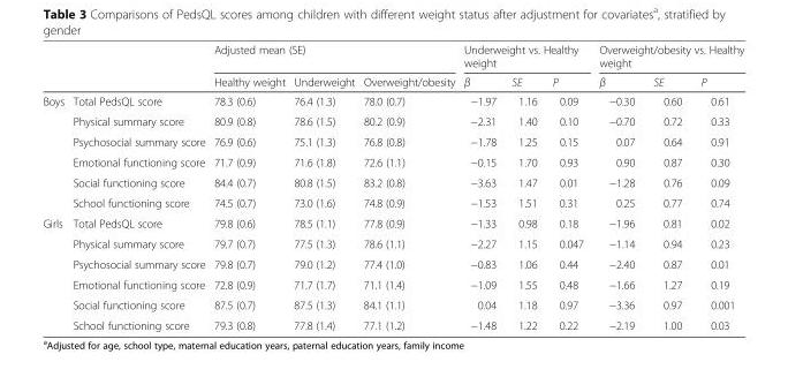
<table><thead><tr><td rowspan="2"></td><td rowspan="2"></td><td colspan="3">Adjusted mean (SE)</td><td colspan="3">Underweight vs. Healthy weight</td><td colspan="3">Overweight/obesity vs. Healthy weight</td></tr><tr><td>Healthy weight</td><td>Underweight</td><td>Overweight/obesity</td><td>β</td><td>SE</td><td>P</td><td>β</td><td>SE</td><td>P</td></tr></thead><tbody><tr><td rowspan="6">Boys</td><td>Total PedsQL score</td><td>78.3 (0.6)</td><td>76.4 (1.3)</td><td>78.0 (0.7)</td><td>−1.97</td><td>1.16</td><td>0.09</td><td>−0.30</td><td>0.60</td><td>0.61</td></tr><tr><td>Physical summary score</td><td>80.9 (0.8)</td><td>78.6 (1.5)</td><td>80.2 (0.9)</td><td>−2.31</td><td>1.40</td><td>0.10</td><td>−0.70</td><td>0.72</td><td>0.33</td></tr><tr><td>Psychosocial summary score</td><td>76.9 (0.6)</td><td>75.1 (1.3)</td><td>76.8 (0.8)</td><td>−1.78</td><td>1.25</td><td>0.15</td><td>0.07</td><td>0.64</td><td>0.91</td></tr><tr><td>Emotional functioning score</td><td>71.7 (0.9)</td><td>71.6 (1.8)</td><td>72.6 (1.1)</td><td>−0.15</td><td>1.70</td><td>0.93</td><td>0.90</td><td>0.87</td><td>0.30</td></tr><tr><td>Social functioning score</td><td>84.4 (0.7)</td><td>80.8 (1.5)</td><td>83.2 (0.8)</td><td>−3.63</td><td>1.47</td><td>0.01</td><td>−1.28</td><td>0.76</td><td>0.09</td></tr><tr><td>School functioning score</td><td>74.5 (0.7)</td><td>73.0 (1.6)</td><td>74.8 (0.9)</td><td>−1.53</td><td>1.51</td><td>0.31</td><td>0.25</td><td>0.77</td><td>0.74</td></tr><tr><td rowspan="6">Girls</td><td>Total PedsQL score</td><td>79.8 (0.6)</td><td>78.5 (1.1)</td><td>77.8 (0.9)</td><td>−1.33</td><td>0.98</td><td>0.18</td><td>−1.96</td><td>0.81</td><td>0.02</td></tr><tr><td>Physical summary score</td><td>79.7 (0.7)</td><td>77.5 (1.3)</td><td>78.6 (1.1)</td><td>−2.27</td><td>1.15</td><td>0.047</td><td>−1.14</td><td>0.94</td><td>0.23</td></tr><tr><td>Psychosocial summary score</td><td>79.8 (0.7)</td><td>79.0 (1.2)</td><td>77.4 (1.0)</td><td>−0.83</td><td>1.06</td><td>0.44</td><td>−2.40</td><td>0.87</td><td>0.01</td></tr><tr><td>Emotional functioning score</td><td>72.8 (0.9)</td><td>71.7 (1.7)</td><td>71.1 (1.4)</td><td>−1.09</td><td>1.55</td><td>0.48</td><td>−1.66</td><td>1.27</td><td>0.19</td></tr><tr><td>Social functioning score</td><td>87.5 (0.7)</td><td>87.5 (1.3)</td><td>84.1 (1.1)</td><td>0.04</td><td>1.18</td><td>0.97</td><td>−3.36</td><td>0.97</td><td>0.001</td></tr><tr><td>School functioning score</td><td>79.3 (0.8)</td><td>77.8 (1.4)</td><td>77.1 (1.2)</td><td>−1.48</td><td>1.22</td><td>0.22</td><td>−2.19</td><td>1.00</td><td>0.03</td></tr></tbody></table>